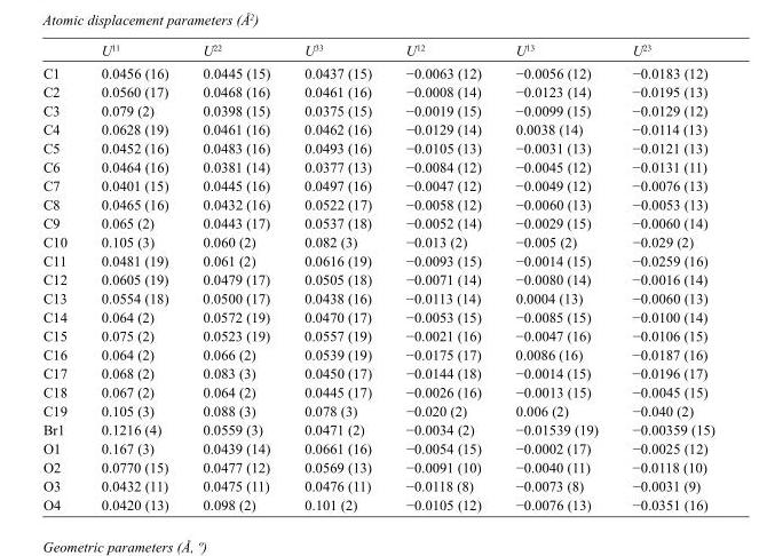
<table><thead><tr><td></td><td>U<sup>11</sup></td><td>U<sup>22</sup></td><td>U<sup>33</sup></td><td>U<sup>12</sup></td><td>U<sup>13</sup></td><td>U<sup>23</sup></td></tr></thead><tbody><tr><td>C1</td><td>0.0456 (16)</td><td>0.0445 (15)</td><td>0.0437 (15)</td><td>−0.0063 (12)</td><td>−0.0056 (12)</td><td>−0.0183 (12)</td></tr><tr><td>C2</td><td>0.0560 (17)</td><td>0.0468 (16)</td><td>0.0461 (16)</td><td>−0.0008 (14)</td><td>−0.0123 (14)</td><td>−0.0195 (13)</td></tr><tr><td>C3</td><td>0.079 (2)</td><td>0.0398 (15)</td><td>0.0375 (15)</td><td>−0.0019 (15)</td><td>−0.0099 (15)</td><td>−0.0129 (12)</td></tr><tr><td>C4</td><td>0.0628 (19)</td><td>0.0461 (16)</td><td>0.0462 (16)</td><td>−0.0129 (14)</td><td>0.0038 (14)</td><td>−0.0114 (13)</td></tr><tr><td>C5</td><td>0.0452 (16)</td><td>0.0483 (16)</td><td>0.0493 (16)</td><td>−0.0105 (13)</td><td>−0.0031 (13)</td><td>−0.0121 (13)</td></tr><tr><td>C6</td><td>0.0464 (16)</td><td>0.0381 (14)</td><td>0.0377 (13)</td><td>−0.0084 (12)</td><td>−0.0045 (12)</td><td>−0.0131 (11)</td></tr><tr><td>C7</td><td>0.0401 (15)</td><td>0.0445 (16)</td><td>0.0497 (16)</td><td>−0.0047 (12)</td><td>−0.0049 (12)</td><td>−0.0076 (13)</td></tr><tr><td>C8</td><td>0.0465 (16)</td><td>0.0432 (16)</td><td>0.0522 (17)</td><td>−0.0058 (12)</td><td>−0.0060 (13)</td><td>−0.0053 (13)</td></tr><tr><td>C9</td><td>0.065 (2)</td><td>0.0443 (17)</td><td>0.0537 (18)</td><td>−0.0052 (14)</td><td>−0.0029 (15)</td><td>−0.0060 (14)</td></tr><tr><td>C10</td><td>0.105 (3)</td><td>0.060 (2)</td><td>0.082 (3)</td><td>−0.013 (2)</td><td>−0.005 (2)</td><td>−0.029 (2)</td></tr><tr><td>C11</td><td>0.0481 (19)</td><td>0.061 (2)</td><td>0.0616 (19)</td><td>−0.0093 (15)</td><td>−0.0014 (15)</td><td>−0.0259 (16)</td></tr><tr><td>C12</td><td>0.0605 (19)</td><td>0.0479 (17)</td><td>0.0505 (18)</td><td>−0.0071 (14)</td><td>−0.0080 (14)</td><td>−0.0016 (14)</td></tr><tr><td>C13</td><td>0.0554 (18)</td><td>0.0500 (17)</td><td>0.0438 (16)</td><td>−0.0113 (14)</td><td>0.0004 (13)</td><td>−0.0060 (13)</td></tr><tr><td>C14</td><td>0.064 (2)</td><td>0.0572 (19)</td><td>0.0470 (17)</td><td>−0.0053 (15)</td><td>−0.0085 (15)</td><td>−0.0100 (14)</td></tr><tr><td>C15</td><td>0.075 (2)</td><td>0.0523 (19)</td><td>0.0557 (19)</td><td>−0.0021 (16)</td><td>−0.0047 (16)</td><td>−0.0106 (15)</td></tr><tr><td>C16</td><td>0.064 (2)</td><td>0.066 (2)</td><td>0.0539 (19)</td><td>−0.0175 (17)</td><td>0.0086 (16)</td><td>−0.0187 (16)</td></tr><tr><td>C17</td><td>0.068 (2)</td><td>0.083 (3)</td><td>0.0450 (17)</td><td>−0.0144 (18)</td><td>−0.0014 (15)</td><td>−0.0196 (17)</td></tr><tr><td>C18</td><td>0.067 (2)</td><td>0.064 (2)</td><td>0.0445 (17)</td><td>−0.0026 (16)</td><td>−0.0013 (15)</td><td>−0.0045 (15)</td></tr><tr><td>C19</td><td>0.105 (3)</td><td>0.088 (3)</td><td>0.078 (3)</td><td>−0.020 (2)</td><td>0.006 (2)</td><td>−0.040 (2)</td></tr><tr><td>Br1</td><td>0.1216 (4)</td><td>0.0559 (3)</td><td>0.0471 (2)</td><td>−0.0034 (2)</td><td>−0.01539 (19)</td><td>−0.00359 (15)</td></tr><tr><td>O1</td><td>0.167 (3)</td><td>0.0439 (14)</td><td>0.0661 (16)</td><td>−0.0054 (15)</td><td>−0.0002 (17)</td><td>−0.0025 (12)</td></tr><tr><td>O2</td><td>0.0770 (15)</td><td>0.0477 (12)</td><td>0.0569 (13)</td><td>−0.0091 (10)</td><td>−0.0040 (11)</td><td>−0.0118 (10)</td></tr><tr><td>O3</td><td>0.0432 (11)</td><td>0.0475 (11)</td><td>0.0476 (11)</td><td>−0.0118 (8)</td><td>−0.0073 (8)</td><td>−0.0031 (9)</td></tr><tr><td>O4</td><td>0.0420 (13)</td><td>0.098 (2)</td><td>0.101 (2)</td><td>−0.0105 (12)</td><td>−0.0076 (13)</td><td>−0.0351 (16)</td></tr></tbody></table>